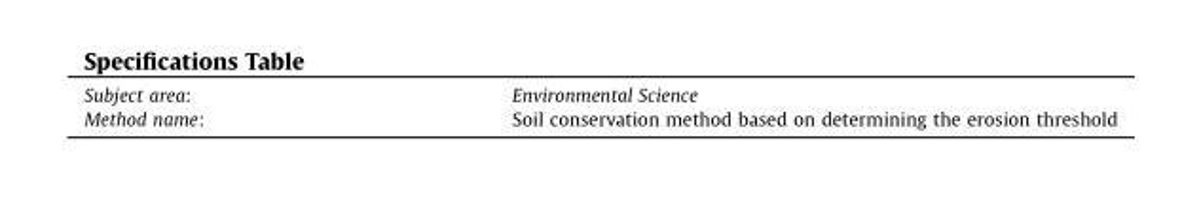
<table><tbody><tr><td>Subject area:</td><td>Environmental Science</td></tr><tr><td>Method name:</td><td>Soil conservation method based on determining the erosion threshold</td></tr></tbody></table>